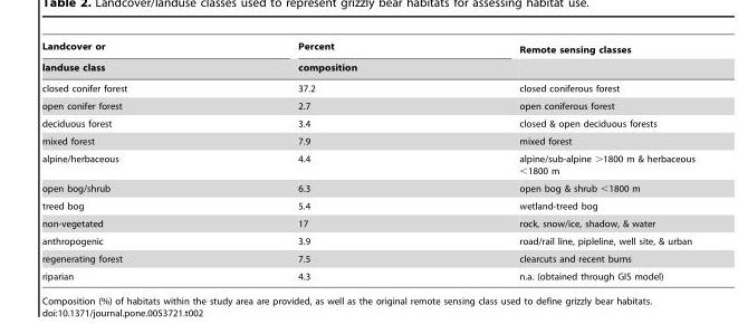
<table><thead><tr><td rowspan="2">Landcover or landuse class</td><td rowspan="2">Percent composition</td><td rowspan="2">Remote sensing classes</td></tr><tr></tr></thead><tbody><tr><td>closed conifer forest</td><td>37.2</td><td>closed coniferous forest</td></tr><tr><td>open conifer forest</td><td>2.7</td><td>open coniferous forest</td></tr><tr><td>deciduous forest</td><td>3.4</td><td>closed &amp; open deciduous forests</td></tr><tr><td>mixed forest</td><td>7.9</td><td>mixed forest</td></tr><tr><td>alpine/herbaceous</td><td>4.4</td><td>alpine/sub-alpine &gt;1800 m &amp; herbaceous &lt;1800 m</td></tr><tr><td>open bog/shrub</td><td>6.3</td><td>open bog &amp; shrub &lt;1800 m</td></tr><tr><td>treed bog</td><td>5.4</td><td>wetland-treed bog</td></tr><tr><td>non-vegetated</td><td>17</td><td>rock, snow/ice, shadow, &amp; water</td></tr><tr><td>anthropogenic</td><td>3.9</td><td>road/rail line, pipleline, well site, &amp; urban</td></tr><tr><td>regenerating forest</td><td>7.5</td><td>clearcuts and recent burns</td></tr><tr><td>riparian</td><td>4.3</td><td>n.a. (obtained through GIS model)</td></tr></tbody></table>